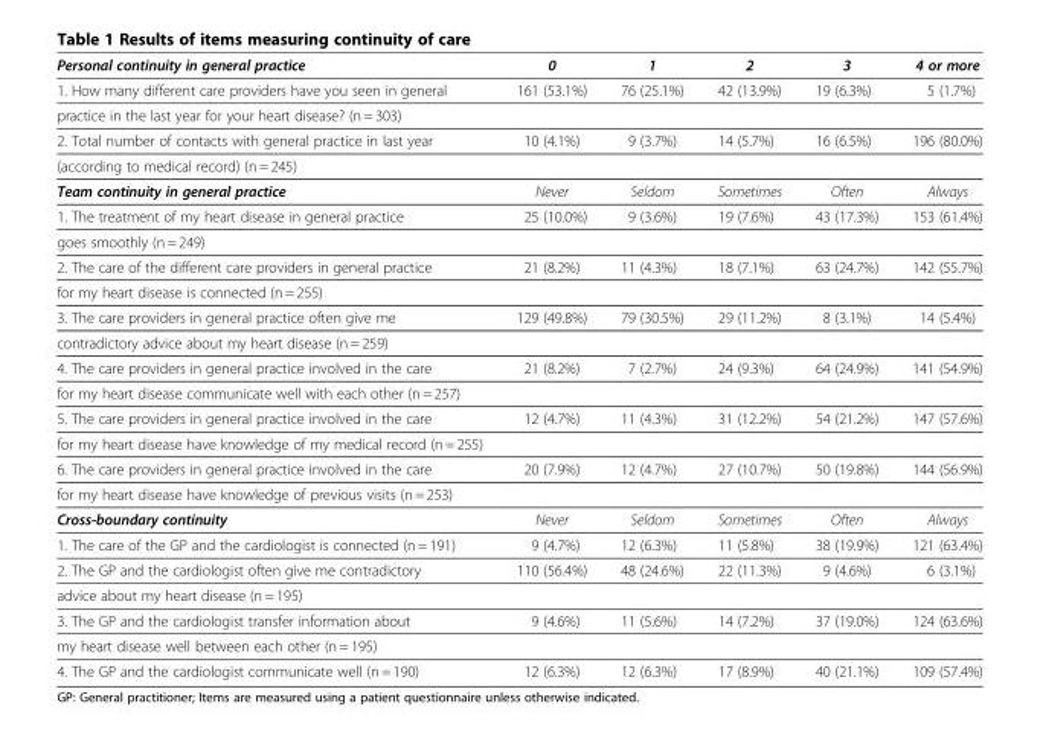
<table><thead><tr><td>Personal continuity in general practice</td><td>0</td><td>1</td><td>2</td><td>3</td><td>4 or more</td></tr></thead><tbody><tr><td>1. How many different care providers have you seen in general</td><td>161 (53.1%)</td><td>76 (25.1%)</td><td>42 (13.9%)</td><td>19 (6.3%)</td><td>5 (1.7%)</td></tr><tr><td colspan="6">practice in the last year for your heart disease? (n = 303)</td></tr><tr><td>2. Total number of contacts with general practice in last year</td><td>10 (4.1%)</td><td>9 (3.7%)</td><td>14 (5.7%)</td><td>16 (6.5%)</td><td>196 (80.0%)</td></tr><tr><td colspan="6">(according to medical record) (n = 245)</td></tr><tr><td>Team continuity in general practice</td><td>Never</td><td>Seldom</td><td>Sometimes</td><td>Often</td><td>Always</td></tr><tr><td>1. The treatment of my heart disease in general practice</td><td>25 (10.0%)</td><td>9 (3.6%)</td><td>19 (7.6%)</td><td>43 (17.3%)</td><td>153 (61.4%)</td></tr><tr><td colspan="6">goes smoothly (n = 249)</td></tr><tr><td>2. The care of the different care providers in general practice</td><td>21 (8.2%)</td><td>11 (4.3%)</td><td>18 (7.1%)</td><td>63 (24.7%)</td><td>142 (55.7%)</td></tr><tr><td colspan="6">for my heart disease is connected (n = 255)</td></tr><tr><td>3. The care providers in general practice often give me</td><td>129 (49.8%)</td><td>79 (30.5%)</td><td>29 (11.2%)</td><td>8 (3.1%)</td><td>14 (5.4%)</td></tr><tr><td colspan="6">contradictory advice about my heart disease (n = 259)</td></tr><tr><td>4. The care providers in general practice involved in the care</td><td>21 (8.2%)</td><td>7 (2.7%)</td><td>24 (9.3%)</td><td>64 (24.9%)</td><td>141 (54.9%)</td></tr><tr><td colspan="6">for my heart disease communicate well with each other (n = 257)</td></tr><tr><td>5. The care providers in general practice involved in the care</td><td>12 (4.7%)</td><td>11 (4.3%)</td><td>31 (12.2%)</td><td>54 (21.2%)</td><td>147 (57.6%)</td></tr><tr><td colspan="6">for my heart disease have knowledge of my medical record (n = 255)</td></tr><tr><td>6. The care providers in general practice involved in the care</td><td>20 (7.9%)</td><td>12 (4.7%)</td><td>27 (10.7%)</td><td>50 (19.8%)</td><td>144 (56.9%)</td></tr><tr><td colspan="6">for my heart disease have knowledge of previous visits (n = 253)</td></tr><tr><td>Cross-boundary continuity</td><td>Never</td><td>Seldom</td><td>Sometimes</td><td>Often</td><td>Always</td></tr><tr><td>1. The care of the GP and the cardiologist is connected (n = 191)</td><td>9 (4.7%)</td><td>12 (6.3%)</td><td>11 (5.8%)</td><td>38 (19.9%)</td><td>121 (63.4%)</td></tr><tr><td>2. The GP and the cardiologist often give me contradictory</td><td>110 (56.4%)</td><td>48 (24.6%)</td><td>22 (11.3%)</td><td>9 (4.6%)</td><td>6 (3.1%)</td></tr><tr><td colspan="6">advice about my heart disease (n = 195)</td></tr><tr><td>3. The GP and the cardiologist transfer information about</td><td>9 (4.6%)</td><td>11 (5.6%)</td><td>14 (7.2%)</td><td>37 (19.0%)</td><td>124 (63.6%)</td></tr><tr><td colspan="6">my heart disease well between each other (n = 195)</td></tr><tr><td>4. The GP and the cardiologist communicate well (n = 190)</td><td>12 (6.3%)</td><td>12 (6.3%)</td><td>17 (8.9%)</td><td>40 (21.1%)</td><td>109 (57.4%)</td></tr></tbody></table>